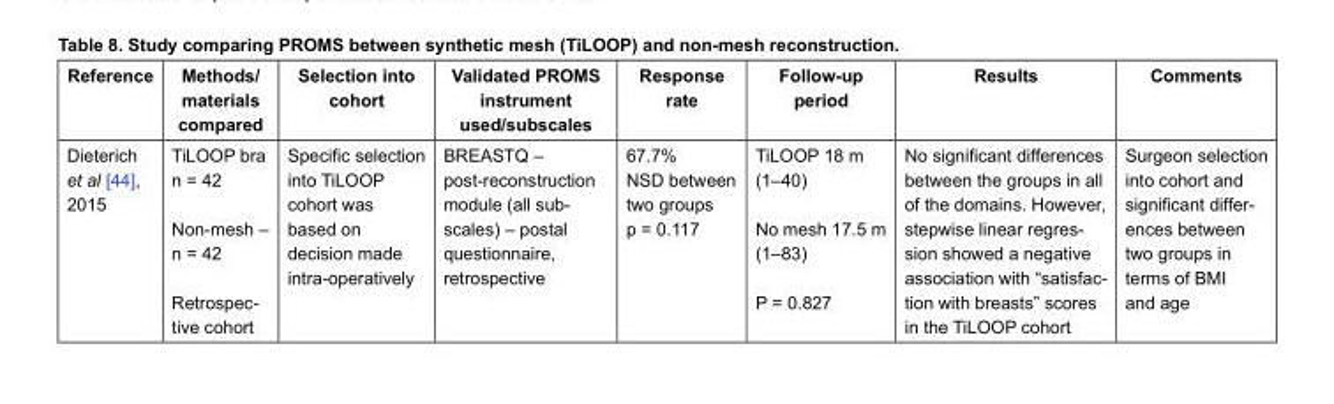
<table><thead><tr><td>Reference</td><td>Methods/ materials compared</td><td>Selection into cohort</td><td>Validated PROMS instrument used/subscales</td><td>Response rate</td><td>Follow-up period</td><td>Results</td><td>Comments</td></tr></thead><tbody><tr><td>Dieterich et al [44], 2015</td><td>TiLOOP bra n = 42 Non-mesh – n = 42 Retrospec- tive cohort</td><td>Specific selection into TiLOOP cohort was based on decision made intra-operatively</td><td>BREASTQ – post-reconstruction module (all sub- scales) – postal questionnaire, retrospective</td><td>67.7% NSD between two groups p = 0.117</td><td>TiLOOP 18 m (1–40) No mesh 17.5 m (1–83) P = 0.827</td><td>No significant differences between the groups in all of the domains. However, stepwise linear regres- sion showed a negative association with “satisfac- tion with breasts” scores in the TiLOOP cohort</td><td>Surgeon selection into cohort and significant differ- ences between two groups in terms of BMI and age</td></tr></tbody></table>